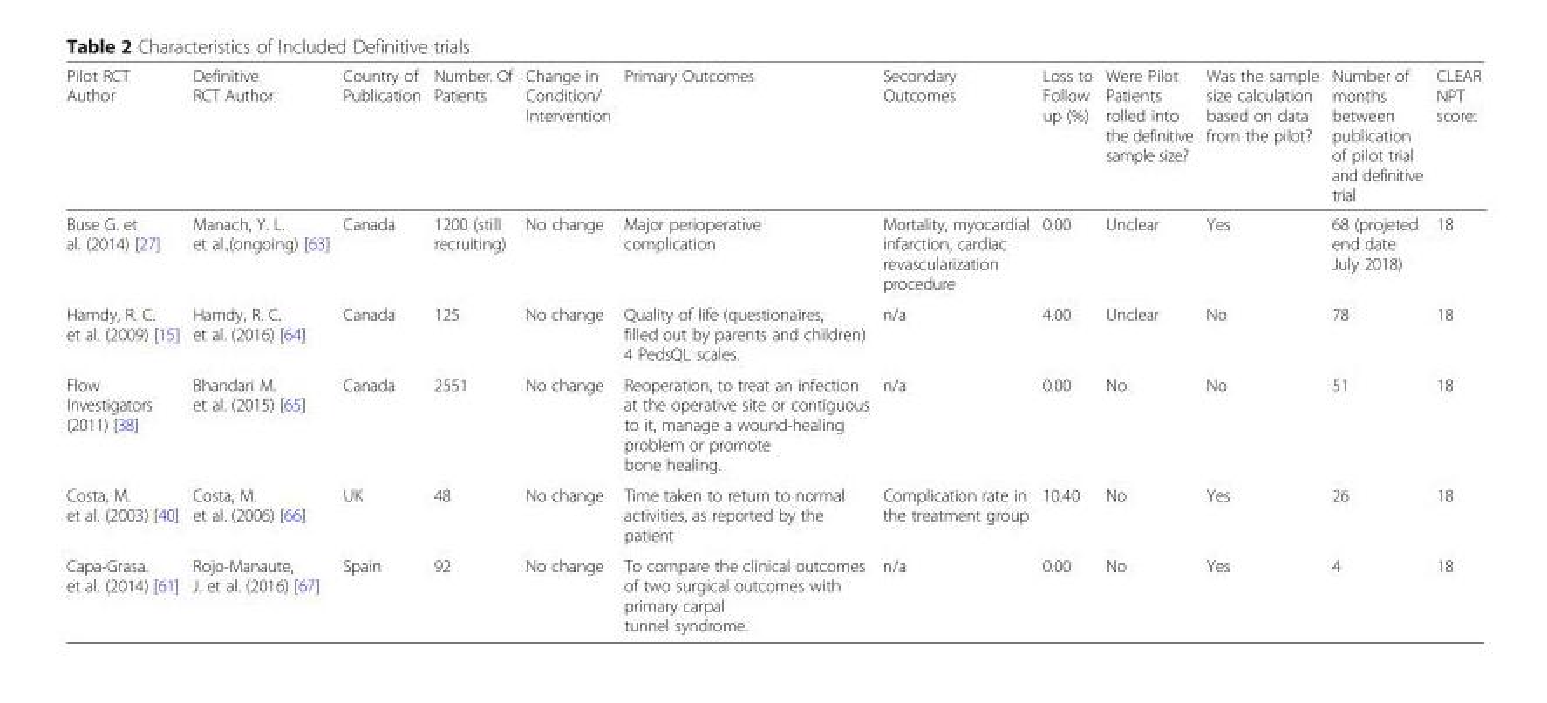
<table><thead><tr><td>Pilot RCT Author</td><td>Definitive RCT Author</td><td>Country of Publication</td><td>Number. Of Patients</td><td>Change in Condition/ Intervention</td><td>Primary Outcomes</td><td>Secondary Outcomes</td><td>Loss to Follow up (%)</td><td>Were Pilot Patients rolled into the definitive sample size?</td><td>Was the sample size calculation based on data from the pilot?</td><td>Number of months between publication of pilot trial and definitive trial</td><td>CLEAR NPT score:</td></tr></thead><tbody><tr><td>Buse G. et al. (2014) [27]</td><td>Manach, Y. L. et al.,(ongoing) [63]</td><td>Canada</td><td>1200 (still recruiting)</td><td>No change</td><td>Major perioperative complication</td><td>Mortality, myocardial infarction, cardiac revascularization procedure</td><td>0.00</td><td>Unclear</td><td>Yes</td><td>68 (projeted end date July 2018)</td><td>18</td></tr><tr><td>Hamdy, R. C. et al. (2009) [15]</td><td>Hamdy, R. C. et al. (2016) [64]</td><td>Canada</td><td>125</td><td>No change</td><td>Quality of life (questionaires, filled out by parents and children) 4 PedsQL scales.</td><td>n/a</td><td>4.00</td><td>Unclear</td><td>No</td><td>78</td><td>18</td></tr><tr><td>Flow Investigators (2011) [38]</td><td>Bhandari M. et al. (2015) [65]</td><td>Canada</td><td>2551</td><td>No change</td><td>Reoperation, to treat an infection at the operative site or contiguous to it, manage a wound-healing problem or promote bone healing.</td><td>n/a</td><td>0.00</td><td>No</td><td>No</td><td>51</td><td>18</td></tr><tr><td>Costa, M. et al. (2003) [40]</td><td>Costa, M. et al. (2006) [66]</td><td>UK</td><td>48</td><td>No change</td><td>Time taken to return to normal activities, as reported by the patient</td><td>Complication rate in the treatment group</td><td>10.40</td><td>No</td><td>Yes</td><td>26</td><td>18</td></tr><tr><td>Capa-Grasa. et al. (2014) [61]</td><td>Rojo-Manaute, J. et al. (2016) [67]</td><td>Spain</td><td>92</td><td>No change</td><td>To compare the clinical outcomes of two surgical outcomes with primary carpal tunnel syndrome.</td><td>n/a</td><td>0.00</td><td>No</td><td>Yes</td><td>4</td><td>18</td></tr></tbody></table>